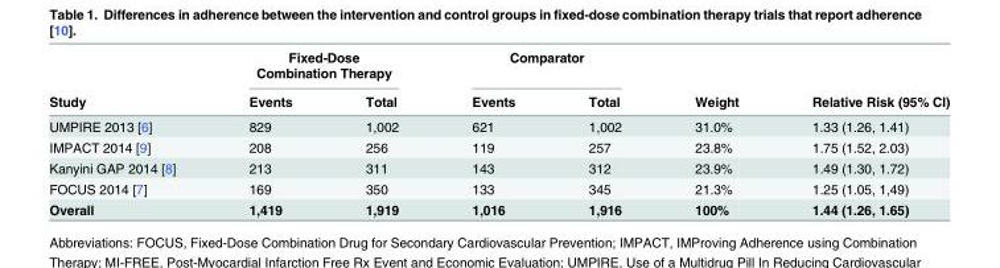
<table><thead><tr><td rowspan="2">Study</td><td colspan="2">Fixed-Dose Combination Therapy</td><td colspan="2">Comparator</td><td rowspan="2">Weight</td><td rowspan="2">Relative Risk (95% CI)</td></tr><tr><td>Events</td><td>Total</td><td>Events</td><td>Total</td></tr></thead><tbody><tr><td>UMPIRE 2013 [6]</td><td>829</td><td>1,002</td><td>621</td><td>1,002</td><td>31.0%</td><td>1.33 (1.26, 1.41)</td></tr><tr><td>IMPACT 2014 [9]</td><td>208</td><td>256</td><td>119</td><td>257</td><td>23.8%</td><td>1.75 (1.52, 2.03)</td></tr><tr><td>Kanyini GAP 2014 [8]</td><td>213</td><td>311</td><td>143</td><td>312</td><td>23.9%</td><td>1.49 (1.30, 1.72)</td></tr><tr><td>FOCUS 2014 [7]</td><td>169</td><td>350</td><td>133</td><td>345</td><td>21.3%</td><td>1.25 (1.05, 1,49)</td></tr><tr><td>Overall</td><td>1,419</td><td>1,919</td><td>1,016</td><td>1,916</td><td>100%</td><td>1.44 (1.26, 1.65)</td></tr></tbody></table>